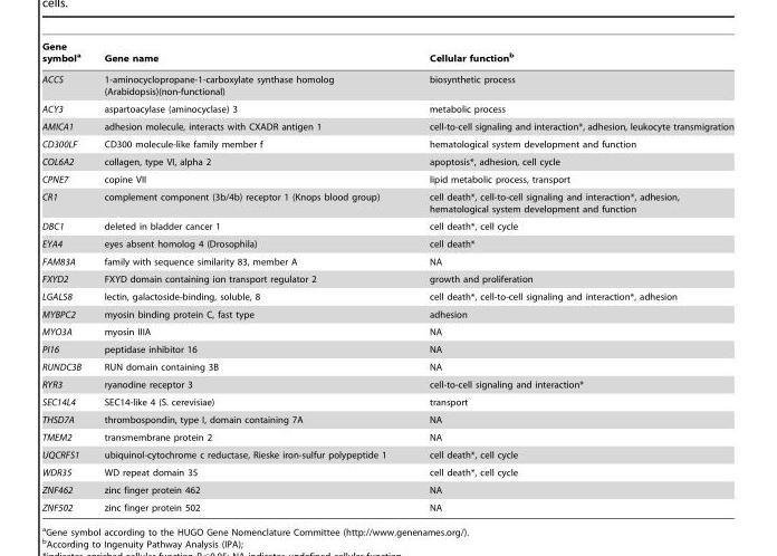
<table><thead><tr><td>Gene symbol<sup>a</sup></td><td>Gene name</td><td>Cellular function<sup>b</sup></td></tr></thead><tbody><tr><td>ACCS</td><td>1-aminocyclopropane-1-carboxylate synthase homolog (Arabidopsis)(non-functional)</td><td>biosynthetic process</td></tr><tr><td>ACY3</td><td>aspartoacylase (aminocyclase) 3</td><td>metabolic process</td></tr><tr><td>AMICA1</td><td>adhesion molecule, interacts with CXADR antigen 1</td><td>cell-to-cell signaling and interaction*, adhesion, leukocyte transmigration</td></tr><tr><td>CD300LF</td><td>CD300 molecule-like family member f</td><td>hematological system development and function</td></tr><tr><td>COL6A2</td><td>collagen, type VI, alpha 2</td><td>apoptosis*, adhesion, cell cycle</td></tr><tr><td>CPNE7</td><td>copine VII</td><td>lipid metabolic process, transport</td></tr><tr><td>CR1</td><td>complement component (3b/4b) receptor 1 (Knops blood group)</td><td>cell death*, cell-to-cell signaling and interaction*, adhesion, hematological system development and function</td></tr><tr><td>DBC1</td><td>deleted in bladder cancer 1</td><td>cell death*, cell cycle</td></tr><tr><td>EYA4</td><td>eyes absent homolog 4 (Drosophila)</td><td>cell death*</td></tr><tr><td>FAM83A</td><td>family with sequence similarity 83, member A</td><td>NA</td></tr><tr><td>FXYD2</td><td>FXYD domain containing ion transport regulator 2</td><td>growth and proliferation</td></tr><tr><td>LGALS8</td><td>lectin, galactoside-binding, soluble, 8</td><td>cell death*, cell-to-cell signaling and interaction*, adhesion</td></tr><tr><td>MYBPC2</td><td>myosin binding protein C, fast type</td><td>adhesion</td></tr><tr><td>MYO3A</td><td>myosin IIIA</td><td>NA</td></tr><tr><td>PI16</td><td>peptidase inhibitor 16</td><td>NA</td></tr><tr><td>RUNDC3B</td><td>RUN domain containing 3B</td><td>NA</td></tr><tr><td>RYR3</td><td>ryanodine receptor 3</td><td>cell-to-cell signaling and interaction*</td></tr><tr><td>SEC14L4</td><td>SEC14-like 4 (S. cerevisiae)</td><td>transport</td></tr><tr><td>THSD7A</td><td>thrombospondin, type I, domain containing 7A</td><td>NA</td></tr><tr><td>TMEM2</td><td>transmembrane protein 2</td><td>NA</td></tr><tr><td>UQCRFS1</td><td>ubiquinol-cytochrome c reductase, Rieske iron-sulfur polypeptide 1</td><td>cell death*, cell cycle</td></tr><tr><td>WDR35</td><td>WD repeat domain 35</td><td>cell death*, cell cycle</td></tr><tr><td>ZNF462</td><td>zinc finger protein 462</td><td>NA</td></tr><tr><td>ZNF502</td><td>zinc finger protein 502</td><td>NA</td></tr></tbody></table>